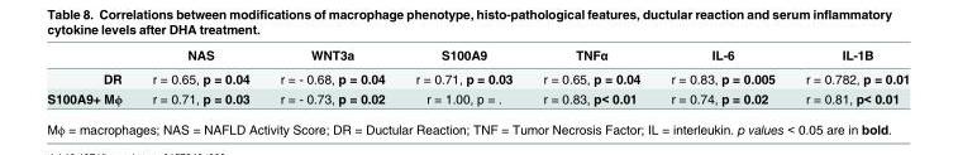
<table><thead><tr><td></td><td>NAS</td><td>WNT3a</td><td>S100A9</td><td>TNFα</td><td>IL-6</td><td>IL-1B</td></tr></thead><tbody><tr><td>DR</td><td>r = 0.65, p = 0.04</td><td>r = - 0.68, p = 0.04</td><td>r = 0.71, p = 0.03</td><td>r = 0.65, p = 0.04</td><td>r = 0.83, p = 0.005</td><td>r = 0.782, p = 0.01</td></tr><tr><td>S100A9+ Mϕ</td><td>r = 0.71, p = 0.03</td><td>r = - 0.73, p = 0.02</td><td>r = 1.00, p = .</td><td>r = 0.83, p&lt; 0.01</td><td>r = 0.74, p = 0.02</td><td>r = 0.81, p&lt; 0.01</td></tr></tbody></table>